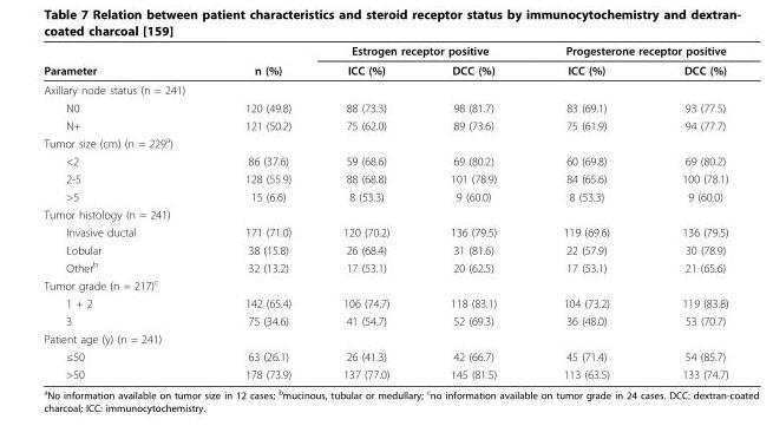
<table><thead><tr><td rowspan="2">Parameter</td><td rowspan="2">n (%)</td><td colspan="2">Estrogen receptor positive</td><td colspan="2">Progesterone receptor positive</td></tr><tr><td>ICC (%)</td><td>DCC (%)</td><td>ICC (%)</td><td>DCC (%)</td></tr></thead><tbody><tr><td colspan="6">Axillary node status (n = 241)</td></tr><tr><td>N0</td><td>120 (49.8)</td><td>88 (73.3)</td><td>98 (81.7)</td><td>83 (69.1)</td><td>93 (77.5)</td></tr><tr><td>N+</td><td>121 (50.2)</td><td>75 (62.0)</td><td>89 (73.6)</td><td>75 (61.9)</td><td>94 (77.7)</td></tr><tr><td colspan="6">Tumor size (cm) (n = 229<sup>a</sup>)</td></tr><tr><td>&lt;2</td><td>86 (37.6)</td><td>59 (68.6)</td><td>69 (80.2)</td><td>60 (69.8)</td><td>69 (80.2)</td></tr><tr><td>2-5</td><td>128 (55.9)</td><td>88 (68.8)</td><td>101 (78.9)</td><td>84 (65.6)</td><td>100 (78.1)</td></tr><tr><td>&gt;5</td><td>15 (6.6)</td><td>8 (53.3)</td><td>9 (60.0)</td><td>8 (53.3)</td><td>9 (60.0)</td></tr><tr><td colspan="6">Tumor histology (n = 241)</td></tr><tr><td>Invasive ductal</td><td>171 (71.0)</td><td>120 (70.2)</td><td>136 (79.5)</td><td>119 (69.6)</td><td>136 (79.5)</td></tr><tr><td>Lobular</td><td>38 (15.8)</td><td>26 (68.4)</td><td>31 (81.6)</td><td>22 (57.9)</td><td>30 (78.9)</td></tr><tr><td>Other<sup>b</sup></td><td>32 (13.2)</td><td>17 (53.1)</td><td>20 (62.5)</td><td>17 (53.1)</td><td>21 (65.6)</td></tr><tr><td colspan="6">Tumor grade (n = 217)<sup>c</sup></td></tr><tr><td>1 + 2</td><td>142 (65.4)</td><td>106 (74.7)</td><td>118 (83.1)</td><td>104 (73.2)</td><td>119 (83.8)</td></tr><tr><td>3</td><td>75 (34.6)</td><td>41 (54.7)</td><td>52 (69.3)</td><td>36 (48.0)</td><td>53 (70.7)</td></tr><tr><td colspan="6">Patient age (y) (n = 241)</td></tr><tr><td>≤50</td><td>63 (26.1)</td><td>26 (41.3)</td><td>42 (66.7)</td><td>45 (71.4)</td><td>54 (85.7)</td></tr><tr><td>&gt;50</td><td>178 (73.9)</td><td>137 (77.0)</td><td>145 (81.5)</td><td>113 (63.5)</td><td>133 (74.7)</td></tr></tbody></table>